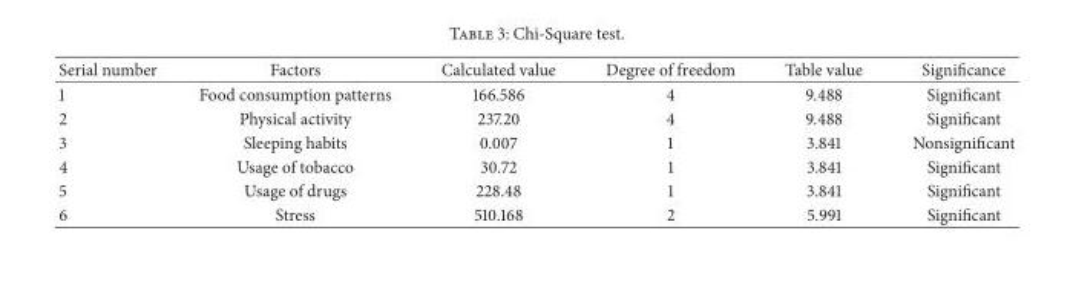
<table><thead><tr><td>Serial number</td><td>Factors</td><td>Calculated value</td><td>Degree of freedom</td><td>Table value</td><td>Significance</td></tr></thead><tbody><tr><td>1</td><td>Food consumption patterns</td><td>166.586</td><td>4</td><td>9.488</td><td>Significant</td></tr><tr><td>2</td><td>Physical activity</td><td>237.20</td><td>4</td><td>9.488</td><td>Significant</td></tr><tr><td>3</td><td>Sleeping habits</td><td>0.007</td><td>1</td><td>3.841</td><td>Nonsignificant</td></tr><tr><td>4</td><td>Usage of tobacco</td><td>30.72</td><td>1</td><td>3.841</td><td>Significant</td></tr><tr><td>5</td><td>Usage of drugs</td><td>228.48</td><td>1</td><td>3.841</td><td>Significant</td></tr><tr><td>6</td><td>Stress</td><td>510.168</td><td>2</td><td>5.991</td><td>Significant</td></tr></tbody></table>